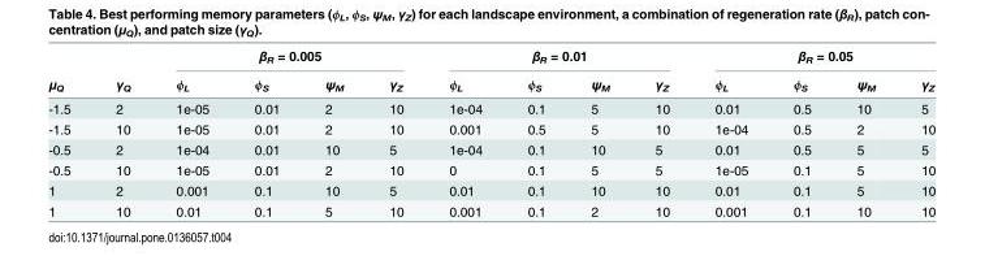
<table><thead><tr><td rowspan="2">μ<sub>Q</sub></td><td rowspan="2">γ<sub>Q</sub></td><td colspan="4">β<sub>R</sub> = 0.005</td><td colspan="4">β<sub>R</sub> = 0.01</td><td colspan="4">β<sub>R</sub> = 0.05</td></tr><tr><td>ϕ<sub>L</sub></td><td>ϕ<sub>S</sub></td><td>ψ<sub>M</sub></td><td>γ<sub>Z</sub></td><td>ϕ<sub>L</sub></td><td>ϕ<sub>S</sub></td><td>ψ<sub>M</sub></td><td>γ<sub>Z</sub></td><td>ϕ<sub>L</sub></td><td>ϕ<sub>S</sub></td><td>ψ<sub>M</sub></td><td>γ<sub>Z</sub></td></tr></thead><tbody><tr><td>-1.5</td><td>2</td><td>1e-05</td><td>0.01</td><td>2</td><td>10</td><td>1e-04</td><td>0.1</td><td>5</td><td>10</td><td>0.01</td><td>0.5</td><td>10</td><td>5</td></tr><tr><td>-1.5</td><td>10</td><td>1e-05</td><td>0.01</td><td>2</td><td>10</td><td>0.001</td><td>0.5</td><td>5</td><td>10</td><td>1e-04</td><td>0.5</td><td>2</td><td>10</td></tr><tr><td>-0.5</td><td>2</td><td>1e-04</td><td>0.01</td><td>10</td><td>5</td><td>1e-04</td><td>0.1</td><td>10</td><td>5</td><td>0.01</td><td>0.5</td><td>5</td><td>5</td></tr><tr><td>-0.5</td><td>10</td><td>1e-05</td><td>0.01</td><td>2</td><td>10</td><td>0</td><td>0.1</td><td>5</td><td>5</td><td>1e-05</td><td>0.1</td><td>5</td><td>10</td></tr><tr><td>1</td><td>2</td><td>0.001</td><td>0.1</td><td>10</td><td>5</td><td>0.01</td><td>0.1</td><td>10</td><td>10</td><td>0.01</td><td>0.1</td><td>5</td><td>10</td></tr><tr><td>1</td><td>10</td><td>0.01</td><td>0.1</td><td>5</td><td>10</td><td>0.001</td><td>0.1</td><td>2</td><td>10</td><td>0.001</td><td>0.1</td><td>10</td><td>10</td></tr></tbody></table>